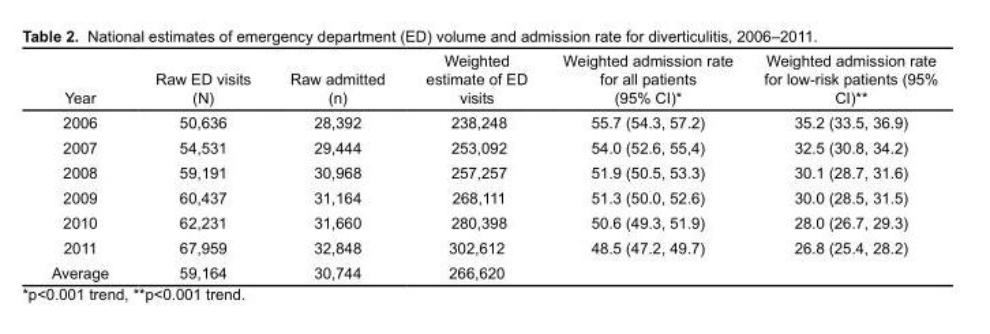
<table><thead><tr><td>Year</td><td>Raw ED visits (N)</td><td>Raw admitted (n)</td><td>Weighted estimate of ED visits</td><td>Weighted admission rate for all patients (95% CI)*</td><td>Weighted admission rate for low-risk patients (95% CI)**</td></tr></thead><tbody><tr><td>2006</td><td>50,636</td><td>28,392</td><td>238,248</td><td>55.7 (54.3, 57.2)</td><td>35.2 (33.5, 36.9)</td></tr><tr><td>2007</td><td>54,531</td><td>29,444</td><td>253,092</td><td>54.0 (52.6, 55,4)</td><td>32.5 (30.8, 34.2)</td></tr><tr><td>2008</td><td>59,191</td><td>30,968</td><td>257,257</td><td>51.9 (50.5, 53.3)</td><td>30.1 (28.7, 31.6)</td></tr><tr><td>2009</td><td>60,437</td><td>31,164</td><td>268,111</td><td>51.3 (50.0, 52.6)</td><td>30.0 (28.5, 31.5)</td></tr><tr><td>2010</td><td>62,231</td><td>31,660</td><td>280,398</td><td>50.6 (49.3, 51.9)</td><td>28.0 (26.7, 29.3)</td></tr><tr><td>2011</td><td>67,959</td><td>32,848</td><td>302,612</td><td>48.5 (47.2, 49.7)</td><td>26.8 (25.4, 28.2)</td></tr><tr><td>Average</td><td>59,164</td><td>30,744</td><td>266,620</td><td></td><td></td></tr></tbody></table>